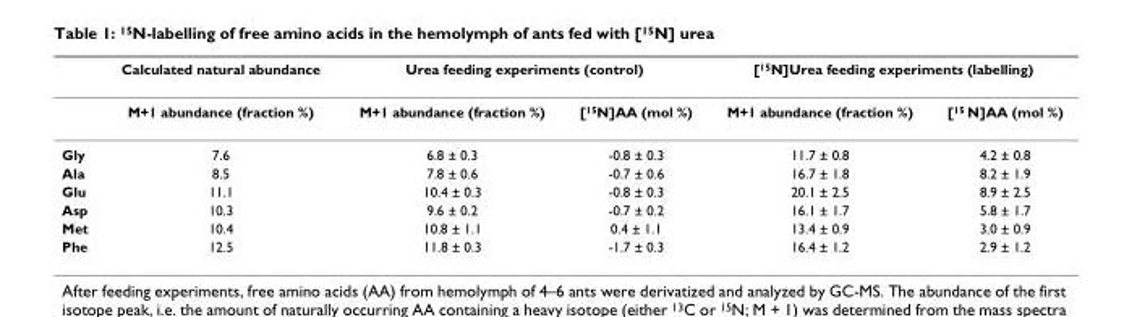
<table><thead><tr><td rowspan="2"></td><td rowspan="2">Calculated natural abundance M+1 abundance (fraction %)</td><td colspan="2">Urea feeding experiments (control)</td><td colspan="2">[15N]Urea feeding experiments (labelling)</td></tr><tr><td>M+1 abundance (fraction %)</td><td>[15N]AA (mol %)</td><td>M+1 abundance (fraction %)</td><td>[15 N]AA (mol %)</td></tr></thead><tbody><tr><td>Gly</td><td>7.6</td><td>6.8 ± 0.3</td><td>-0.8 ± 0.3</td><td>11.7 ± 0.8</td><td>4.2 ± 0.8</td></tr><tr><td>Ala</td><td>8.5</td><td>7.8 ± 0.6</td><td>-0.7 ± 0.6</td><td>16.7 ± 1.8</td><td>8.2 ± 1.9</td></tr><tr><td>Glu</td><td>11.1</td><td>10.4 ± 0.3</td><td>-0.8 ± 0.3</td><td>20.1 ± 2.5</td><td>8.9 ± 2.5</td></tr><tr><td>Asp</td><td>10.3</td><td>9.6 ± 0.2</td><td>-0.7 ± 0.2</td><td>16.1 ± 1.7</td><td>5.8 ± 1.7</td></tr><tr><td>Met</td><td>10.4</td><td>10.8 ± 1.1</td><td>0.4 ± 1.1</td><td>13.4 ± 0.9</td><td>3.0 ± 0.9</td></tr><tr><td>Phe</td><td>12.5</td><td>11.8 ± 0.3</td><td>-1.7 ± 0.3</td><td>16.4 ± 1.2</td><td>2.9 ± 1.2</td></tr></tbody></table>